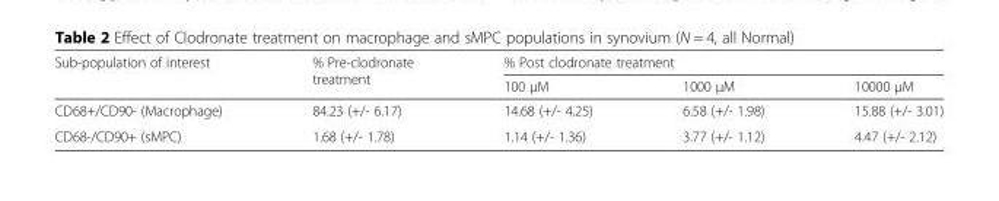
<table><thead><tr><td rowspan="2">Sub-population of interest</td><td rowspan="2">% Pre-clodronate treatment</td><td colspan="3">% Post clodronate treatment</td></tr><tr><td>100 μM</td><td>1000 μM</td><td>10000 μM</td></tr></thead><tbody><tr><td>CD68+/CD90- (Macrophage)</td><td>84.23 (+/- 6.17)</td><td>14.68 (+/- 4.25)</td><td>6.58 (+/- 1.98)</td><td>15.88 (+/- 3.01)</td></tr><tr><td>CD68-/CD90+ (sMPC)</td><td>1.68 (+/- 1.78)</td><td>1.14 (+/- 1.36)</td><td>3.77 (+/- 1.12)</td><td>4.47 (+/- 2.12)</td></tr></tbody></table>